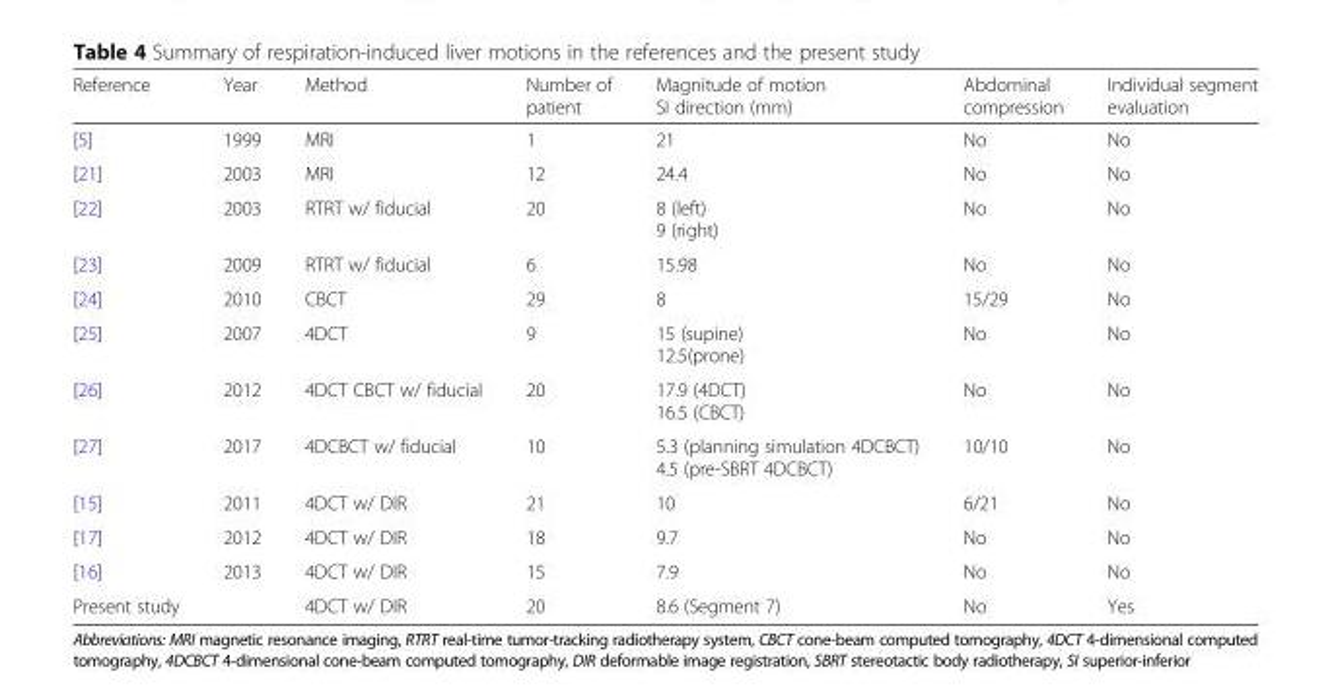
<table><thead><tr><td>Reference</td><td>Year</td><td>Method</td><td>Number of patient</td><td>Magnitude of motion SI direction (mm)</td><td>Abdominal compression</td><td>Individual segment evaluation</td></tr></thead><tbody><tr><td>[5]</td><td>1999</td><td>MRI</td><td>1</td><td>21</td><td>No</td><td>No</td></tr><tr><td>[21]</td><td>2003</td><td>MRI</td><td>12</td><td>24.4</td><td>No</td><td>No</td></tr><tr><td>[22]</td><td>2003</td><td>RTRT w/ fiducial</td><td>20</td><td>8 (left) 9 (right)</td><td>No</td><td>No</td></tr><tr><td>[23]</td><td>2009</td><td>RTRT w/ fiducial</td><td>6</td><td>15.98</td><td>No</td><td>No</td></tr><tr><td>[24]</td><td>2010</td><td>CBCT</td><td>29</td><td>8</td><td>15/29</td><td>No</td></tr><tr><td>[25]</td><td>2007</td><td>4DCT</td><td>9</td><td>15 (supine) 12.5(prone)</td><td>No</td><td>No</td></tr><tr><td>[26]</td><td>2012</td><td>4DCT CBCT w/ fiducial</td><td>20</td><td>17.9 (4DCT) 16.5 (CBCT)</td><td>No</td><td>No</td></tr><tr><td>[27]</td><td>2017</td><td>4DCBCT w/ fiducial</td><td>10</td><td>5.3 (planning simulation 4DCBCT) 4.5 (pre-SBRT 4DCBCT)</td><td>10/10</td><td>No</td></tr><tr><td>[15]</td><td>2011</td><td>4DCT w/ DIR</td><td>21</td><td>10</td><td>6/21</td><td>No</td></tr><tr><td>[17]</td><td>2012</td><td>4DCT w/ DIR</td><td>18</td><td>9.7</td><td>No</td><td>No</td></tr><tr><td>[16]</td><td>2013</td><td>4DCT w/ DIR</td><td>15</td><td>7.9</td><td>No</td><td>No</td></tr><tr><td>Present study</td><td></td><td>4DCT w/ DIR</td><td>20</td><td>8.6 (Segment 7)</td><td>No</td><td>Yes</td></tr></tbody></table>